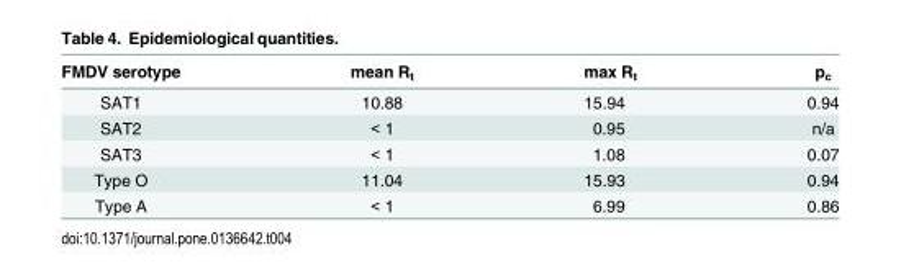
<table><thead><tr><td>FMDV serotype</td><td>mean R<sub>t</sub></td><td>max R<sub>t</sub></td><td>p<sub>c</sub></td></tr></thead><tbody><tr><td>SAT1</td><td>10.88</td><td>15.94</td><td>0.94</td></tr><tr><td>SAT2</td><td>&lt; 1</td><td>0.95</td><td>n/a</td></tr><tr><td>SAT3</td><td>&lt; 1</td><td>1.08</td><td>0.07</td></tr><tr><td>Type O</td><td>11.04</td><td>15.93</td><td>0.94</td></tr><tr><td>Type A</td><td>&lt; 1</td><td>6.99</td><td>0.86</td></tr></tbody></table>